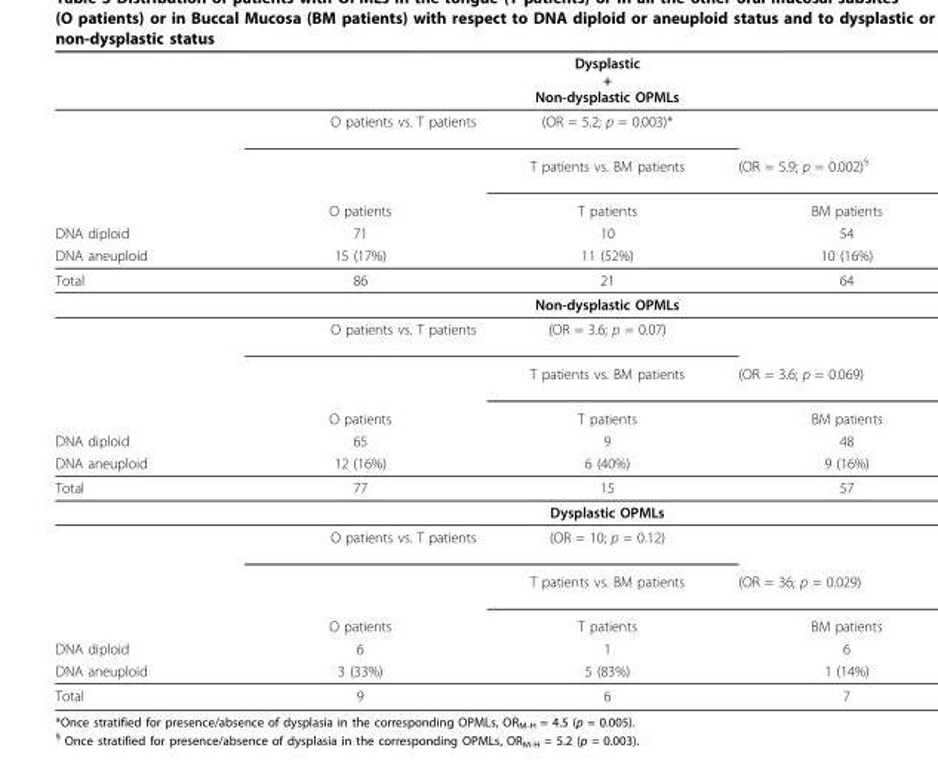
<table><thead><tr><td></td><td></td><td>Dysplastic + Non-dysplastic OPMLs</td><td></td></tr></thead><tbody><tr><td></td><td>O patients vs. T patients</td><td>(OR = 5.2; p = 0.003)*</td><td></td></tr><tr><td></td><td></td><td>T patients vs. BM patients</td><td>(OR = 5.9; p = 0.002)<sup>§</sup></td></tr><tr><td></td><td>O patients</td><td>T patients</td><td>BM patients</td></tr><tr><td>DNA diploid</td><td>71</td><td>10</td><td>54</td></tr><tr><td>DNA aneuploid</td><td>15 (17%)</td><td>11 (52%)</td><td>10 (16%)</td></tr><tr><td rowspan="5">Total</td><td>86</td><td>21</td><td>64</td></tr><tr><td></td><td>Non-dysplastic OPMLs</td><td></td></tr><tr><td>O patients vs. T patients</td><td>(OR = 3.6; p = 0.07)</td><td></td></tr><tr><td></td><td>T patients vs. BM patients</td><td>(OR = 3.6; p = 0.069)</td></tr><tr><td>O patients</td><td>T patients</td><td>BM patients</td></tr><tr><td>DNA diploid</td><td>65</td><td>9</td><td>48</td></tr><tr><td>DNA aneuploid</td><td>12 (16%)</td><td>6 (40%)</td><td>9 (16%)</td></tr><tr><td rowspan="5">Total</td><td>77</td><td>15</td><td>57</td></tr><tr><td></td><td>Dysplastic OPMLs</td><td></td></tr><tr><td>O patients vs. T patients</td><td>(OR = 10; p = 0.12)</td><td></td></tr><tr><td></td><td>T patients vs. BM patients</td><td>(OR = 36; p = 0.029)</td></tr><tr><td>O patients</td><td>T patients</td><td>BM patients</td></tr><tr><td>DNA diploid</td><td>6</td><td>1</td><td>6</td></tr><tr><td>DNA aneuploid</td><td>3 (33%)</td><td>5 (83%)</td><td>1 (14%)</td></tr><tr><td>Total</td><td>9</td><td>6</td><td>7</td></tr></tbody></table>